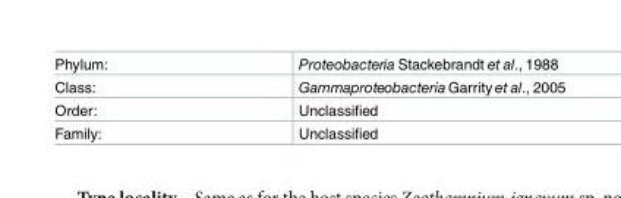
<table><tbody><tr><td>Phylum:</td><td>Proteobacteria Stackebrandt et al., 1988</td></tr><tr><td>Class:</td><td>Gammaproteobacteria Garrity et al., 2005</td></tr><tr><td>Order:</td><td>Unclassified</td></tr><tr><td>Family:</td><td>Unclassified</td></tr></tbody></table>